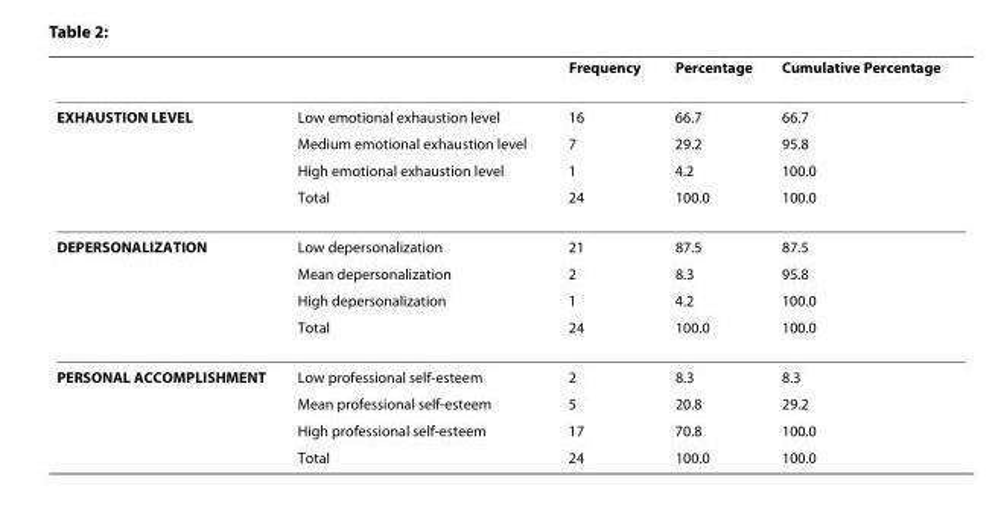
<table><thead><tr><td></td><td></td><td>Frequency</td><td>Percentage</td><td>Cumulative Percentage</td></tr></thead><tbody><tr><td rowspan="4">EXHAUSTION LEVEL</td><td>Low emotional exhaustion level</td><td>16</td><td>66.7</td><td>66.7</td></tr><tr><td>Medium emotional exhaustion level</td><td>7</td><td>29.2</td><td>95.8</td></tr><tr><td>High emotional exhaustion level</td><td>1</td><td>4.2</td><td>100.0</td></tr><tr><td>Total</td><td>24</td><td>100.0</td><td>100.0</td></tr><tr><td rowspan="4">DEPERSONALIZATION</td><td>Low depersonalization</td><td>21</td><td>87.5</td><td>87.5</td></tr><tr><td>Mean depersonalization</td><td>2</td><td>8.3</td><td>95.8</td></tr><tr><td>High depersonalization</td><td>1</td><td>4.2</td><td>100.0</td></tr><tr><td>Total</td><td>24</td><td>100.0</td><td>100.0</td></tr><tr><td rowspan="4">PERSONAL ACCOMPLISHMENT</td><td>Low professional self-esteem</td><td>2</td><td>8.3</td><td>8.3</td></tr><tr><td>Mean professional self-esteem</td><td>5</td><td>20.8</td><td>29.2</td></tr><tr><td>High professional self-esteem</td><td>17</td><td>70.8</td><td>100.0</td></tr><tr><td>Total</td><td>24</td><td>100.0</td><td>100.0</td></tr></tbody></table>